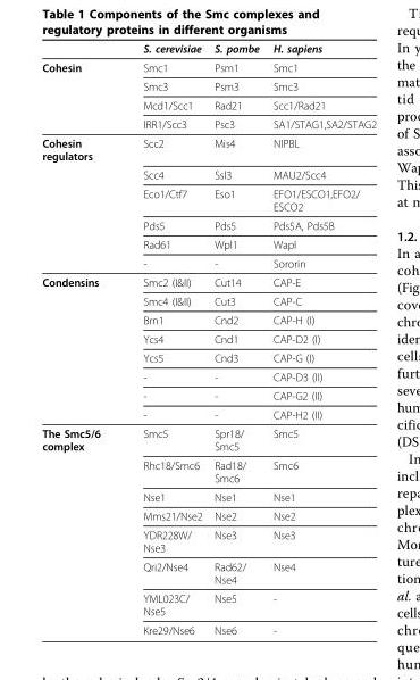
<table><thead><tr><td></td><td>S. cerevisiae</td><td>S. pombe</td><td>H. sapiens</td></tr></thead><tbody><tr><td rowspan="4">Cohesin</td><td>Smc1</td><td>Psm1</td><td>Smc1</td></tr><tr><td>Smc3</td><td>Psm3</td><td>Smc3</td></tr><tr><td>Mcd1/Scc1</td><td>Rad21</td><td>Scc1/Rad21</td></tr><tr><td>IRR1/Scc3</td><td>Psc3</td><td>SA1/STAG1,SA2/STAG2</td></tr><tr><td rowspan="6">Cohesin regulators</td><td>Scc2</td><td>Mis4</td><td>NIPBL</td></tr><tr><td>Scc4</td><td>Ssl3</td><td>MAU2/Scc4</td></tr><tr><td>Eco1/Ctf7</td><td>Eso1</td><td>EFO1/ESCO1,EFO2/ ESCO2</td></tr><tr><td>Pds5</td><td>Pds5</td><td>Pds5A, Pds5B</td></tr><tr><td>Rad61</td><td>Wpl1</td><td>Wapl</td></tr><tr><td>-</td><td>-</td><td>Sororin</td></tr><tr><td rowspan="8">Condensins</td><td>Smc2 (I&amp;II)</td><td>Cut14</td><td>CAP-E</td></tr><tr><td>Smc4 (I&amp;II)</td><td>Cut3</td><td>CAP-C</td></tr><tr><td>Brn1</td><td>Cnd2</td><td>CAP-H (I)</td></tr><tr><td>Ycs4</td><td>Cnd1</td><td>CAP-D2 (I)</td></tr><tr><td>Ycs5</td><td>Cnd3</td><td>CAP-G (I)</td></tr><tr><td>-</td><td>-</td><td>CAP-D3 (II)</td></tr><tr><td>-</td><td>-</td><td>CAP-G2 (II)</td></tr><tr><td>-</td><td>-</td><td>CAP-H2 (II)</td></tr><tr><td rowspan="8">The Smc5/6 complex</td><td>Smc5</td><td>Spr18/ Smc5</td><td>Smc5</td></tr><tr><td>Rhc18/Smc6</td><td>Rad18/ Smc6</td><td>Smc6</td></tr><tr><td>Nse1</td><td>Nse1</td><td>Nse1</td></tr><tr><td>Mms21/Nse2</td><td>Nse2</td><td>Nse2</td></tr><tr><td>YDR228W/ Nse3</td><td>Nse3</td><td>Nse3</td></tr><tr><td>Qri2/Nse4</td><td>Rad62/ Nse4</td><td>Nse4</td></tr><tr><td>YML023C/ Nse5</td><td>Nse5</td><td>-</td></tr><tr><td>Kre29/Nse6</td><td>Nse6</td><td>-</td></tr></tbody></table>